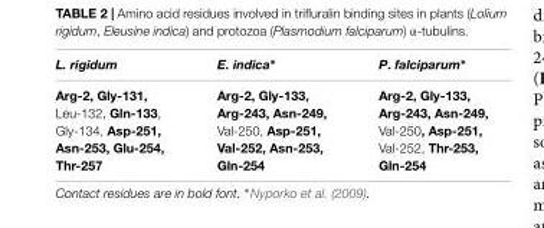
<table><thead><tr><td>L. rigidum</td><td>E. indica∗</td><td>P. falciparum∗</td></tr></thead><tbody><tr><td>Arg-2, Gly-131, Leu-132, Gln-133, Gly-134, Asp-251, Asn-253, Glu-254, Thr-257</td><td>Arg-2, Gly-133, Arg-243, Asn-249, Val-250, Asp-251, Val-252, Asn-253, Gln-254</td><td>Arg-2, Gly-133, Arg-243, Asn-249, Val-250, Asp-251, Val-252, Thr-253, Gln-254</td></tr></tbody></table>